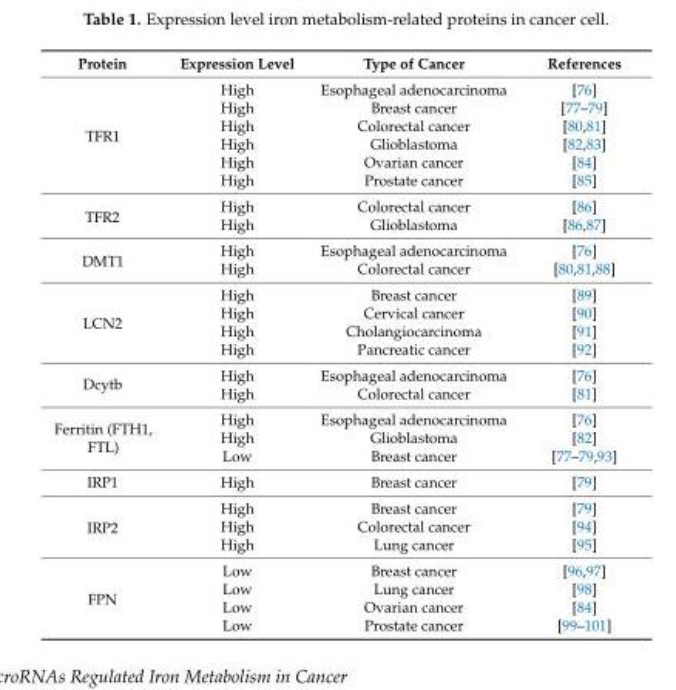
<table><thead><tr><td>Protein</td><td>Expression Level</td><td>Type of Cancer</td><td>References</td></tr></thead><tbody><tr><td rowspan="6">TFR1</td><td>High</td><td>Esophageal adenocarcinoma</td><td>[76]</td></tr><tr><td>High</td><td>Breast cancer</td><td>[77–79]</td></tr><tr><td>High</td><td>Colorectal cancer</td><td>[80,81]</td></tr><tr><td>High</td><td>Glioblastoma</td><td>[82,83]</td></tr><tr><td>High</td><td>Ovarian cancer</td><td>[84]</td></tr><tr><td>High</td><td>Prostate cancer</td><td>[85]</td></tr><tr><td rowspan="2">TFR2</td><td>High</td><td>Colorectal cancer</td><td>[86]</td></tr><tr><td>High</td><td>Glioblastoma</td><td>[86,87]</td></tr><tr><td rowspan="2">DMT1</td><td>High</td><td>Esophageal adenocarcinoma</td><td>[76]</td></tr><tr><td>High</td><td>Colorectal cancer</td><td>[80,81,88]</td></tr><tr><td rowspan="4">LCN2</td><td>High</td><td>Breast cancer</td><td>[89]</td></tr><tr><td>High</td><td>Cervical cancer</td><td>[90]</td></tr><tr><td>High</td><td>Cholangiocarcinoma</td><td>[91]</td></tr><tr><td>High</td><td>Pancreatic cancer</td><td>[92]</td></tr><tr><td rowspan="2">Dcytb</td><td>High</td><td>Esophageal adenocarcinoma</td><td>[76]</td></tr><tr><td>High</td><td>Colorectal cancer</td><td>[81]</td></tr><tr><td rowspan="3">Ferritin (FTH1, FTL)</td><td>High</td><td>Esophageal adenocarcinoma</td><td>[76]</td></tr><tr><td>High</td><td>Glioblastoma</td><td>[82]</td></tr><tr><td>Low</td><td>Breast cancer</td><td>[77–79,93]</td></tr><tr><td>IRP1</td><td>High</td><td>Breast cancer</td><td>[79]</td></tr><tr><td rowspan="3">IRP2</td><td>High</td><td>Breast cancer</td><td>[79]</td></tr><tr><td>High</td><td>Colorectal cancer</td><td>[94]</td></tr><tr><td>High</td><td>Lung cancer</td><td>[95]</td></tr><tr><td rowspan="4">FPN</td><td>Low</td><td>Breast cancer</td><td>[96,97]</td></tr><tr><td>Low</td><td>Lung cancer</td><td>[98]</td></tr><tr><td>Low</td><td>Ovarian cancer</td><td>[84]</td></tr><tr><td>Low</td><td>Prostate cancer</td><td>[99–101]</td></tr></tbody></table>